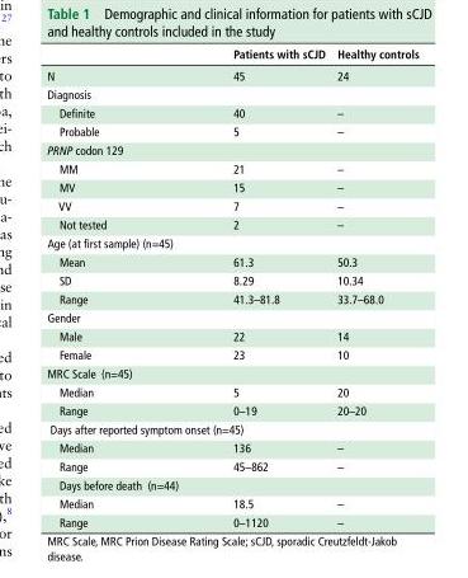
<table><thead><tr><td></td><td>Patients with sCJd</td><td>healthy controls</td></tr></thead><tbody><tr><td>N</td><td>45</td><td>24</td></tr><tr><td colspan="3">Diagnosis</td></tr><tr><td>Definite</td><td>40</td><td>–</td></tr><tr><td>Probable</td><td>5</td><td>–</td></tr><tr><td colspan="3">PRNP codon 129</td></tr><tr><td>MM</td><td>21</td><td>–</td></tr><tr><td>MV</td><td>15</td><td>–</td></tr><tr><td>VV</td><td>7</td><td>–</td></tr><tr><td>Not tested</td><td>2</td><td>–</td></tr><tr><td colspan="3">Age (at first sample) (n=45)</td></tr><tr><td>Mean</td><td>61.3</td><td>50.3</td></tr><tr><td>SD</td><td>8.29</td><td>10.34</td></tr><tr><td>Range</td><td>41.3–81.8</td><td>33.7–68.0</td></tr><tr><td colspan="3">Gender</td></tr><tr><td>Male</td><td>22</td><td>14</td></tr><tr><td>Female</td><td>23</td><td>10</td></tr><tr><td colspan="3">MRC Scale (n=45)</td></tr><tr><td>Median</td><td>5</td><td>20</td></tr><tr><td>Range</td><td>0–19</td><td>20–20</td></tr><tr><td colspan="3">Days after reported symptom onset (n=45)</td></tr><tr><td>Median</td><td>136</td><td>–</td></tr><tr><td>Range</td><td>45–862</td><td>–</td></tr><tr><td colspan="3">Days before death (n=44)</td></tr><tr><td>Median</td><td>18.5</td><td>–</td></tr><tr><td>Range</td><td>0–1120</td><td>–</td></tr></tbody></table>